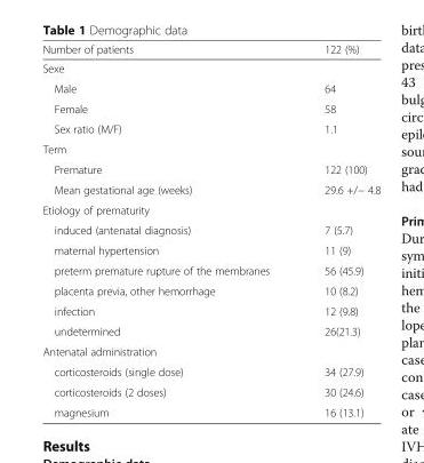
<table><thead><tr><td>Number of patients</td><td>122 (%)</td></tr></thead><tbody><tr><td colspan="2">Sexe</td></tr><tr><td>Male</td><td>64</td></tr><tr><td>Female</td><td>58</td></tr><tr><td>Sex ratio (M/F)</td><td>1.1</td></tr><tr><td colspan="2">Term</td></tr><tr><td>Premature</td><td>122 (100)</td></tr><tr><td>Mean gestational age (weeks)</td><td>29.6 +/− 4.8</td></tr><tr><td colspan="2">Etiology of prematurity</td></tr><tr><td>induced (antenatal diagnosis)</td><td>7 (5.7)</td></tr><tr><td>maternal hypertension</td><td>11 (9)</td></tr><tr><td>preterm premature rupture of the membranes</td><td>56 (45.9)</td></tr><tr><td>placenta previa, other hemorrhage</td><td>10 (8.2)</td></tr><tr><td>infection</td><td>12 (9.8)</td></tr><tr><td>undetermined</td><td>26(21.3)</td></tr><tr><td colspan="2">Antenatal administration</td></tr><tr><td>corticosteroids (single dose)</td><td>34 (27.9)</td></tr><tr><td>corticosteroids (2 doses)</td><td>30 (24.6)</td></tr><tr><td>magnesium</td><td>16 (13.1)</td></tr></tbody></table>